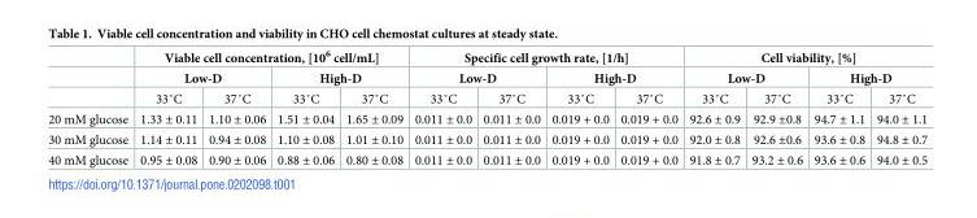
<table><thead><tr><td rowspan="3"></td><td colspan="4">Viable cell concentration, [10<sup>6</sup> cell/mL]</td><td colspan="4">Specific cell growth rate, [1/h]</td><td colspan="4">Cell viability, [%]</td></tr><tr><td colspan="2">Low-D</td><td colspan="2">High-D</td><td colspan="2">Low-D</td><td colspan="2">High-D</td><td colspan="2">Low-D</td><td colspan="2">High-D</td></tr><tr><td>33˚C</td><td>37˚C</td><td>33˚C</td><td>37˚C</td><td>33˚C</td><td>37˚C</td><td>33˚C</td><td>37˚C</td><td>33˚C</td><td>37˚C</td><td>33˚C</td><td>37˚C</td></tr></thead><tbody><tr><td>20 mM glucose</td><td>1.33 ± 0.11</td><td>1.10 ± 0.06</td><td>1.51 ± 0.04</td><td>1.65 ± 0.09</td><td>0.011 ± 0.0</td><td>0.011 ± 0.0</td><td>0.019 + 0.0</td><td>0.019 + 0.0</td><td>92.6 ± 0.9</td><td>92.9 ±0.8</td><td>94.7 ± 1.1</td><td>94.0 ± 1.1</td></tr><tr><td>30 mM glucose</td><td>1.14 ± 0.11</td><td>0.94 ± 0.08</td><td>1.10 ± 0.08</td><td>1.01 ± 0.10</td><td>0.011 ± 0.0</td><td>0.011 ± 0.0</td><td>0.019 + 0.0</td><td>0.019 + 0.0</td><td>92.0 ± 0.8</td><td>92.6 ±0.6</td><td>93.6 ± 0.8</td><td>94.8 ± 0.7</td></tr><tr><td>40 mM glucose</td><td>0.95 ± 0.08</td><td>0.90 ± 0.06</td><td>0.88 ± 0.06</td><td>0.80 ± 0.08</td><td>0.011 ± 0.0</td><td>0.011 ± 0.0</td><td>0.019 + 0.0</td><td>0.019 + 0.0</td><td>91.8 ± 0.7</td><td>93.2 ± 0.6</td><td>93.6 ± 0.6</td><td>94.0 ± 0.5</td></tr></tbody></table>